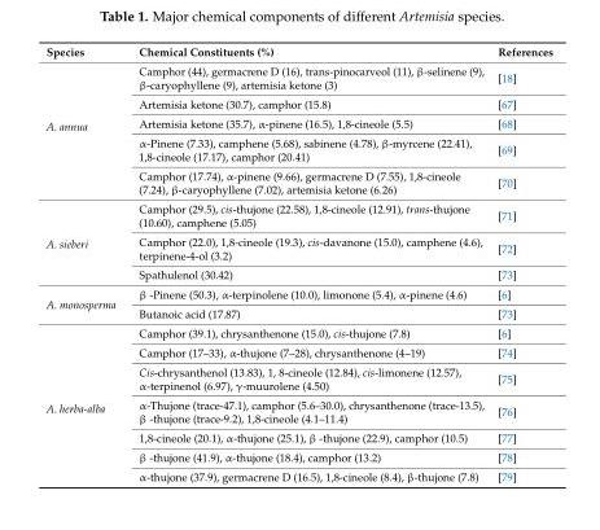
<table><thead><tr><td>Species</td><td>Chemical Constituents (%)</td><td>References</td></tr></thead><tbody><tr><td rowspan="5">A. annua</td><td>Camphor (44), germacrene D (16), trans-pinocarveol (11), β-selinene (9), β-caryophyllene (9), artemisia ketone (3)</td><td>[18]</td></tr><tr><td>Artemisia ketone (30.7), camphor (15.8)</td><td>[67]</td></tr><tr><td>Artemisia ketone (35.7), α-pinene (16.5), 1,8-cineole (5.5)</td><td>[68]</td></tr><tr><td>α-Pinene (7.33), camphene (5.68), sabinene (4.78), β-myrcene (22.41), 1,8-cineole (17.17), camphor (20.41)</td><td>[69]</td></tr><tr><td>Camphor (17.74), α-pinene (9.66), germacrene D (7.55), 1,8-cineole (7.24), β-caryophyllene (7.02), artemisia ketone (6.26)</td><td>[70]</td></tr><tr><td rowspan="3">A. sieberi</td><td>Camphor (29.5), cis-thujone (22.58), 1,8-cineole (12.91), trans-thujone (10.60), camphene (5.05)</td><td>[71]</td></tr><tr><td>Camphor (22.0), 1,8-cineole (19.3), cis-davanone (15.0), camphene (4.6), terpinene-4-ol (3.2)</td><td>[72]</td></tr><tr><td>Spathulenol (30.42)</td><td>[73]</td></tr><tr><td rowspan="2">A. monosperma</td><td>β -Pinene (50.3), α-terpinolene (10.0), limonone (5.4), α-pinene (4.6)</td><td>[6]</td></tr><tr><td>Butanoic acid (17.87)</td><td>[73]</td></tr><tr><td rowspan="7">A. herba-alba</td><td>Camphor (39.1), chrysanthenone (15.0), cis-thujone (7.8)</td><td>[6]</td></tr><tr><td>Camphor (17–33), α-thujone (7–28), chrysanthenone (4–19)</td><td>[74]</td></tr><tr><td>Cis-chrysanthenol (13.83), 1, 8-cineole (12.84), cis-limonene (12.57), α-terpinenol (6.97), γ-muurolene (4.50)</td><td>[75]</td></tr><tr><td>α-Thujone (trace-47.1), camphor (5.6–30.0), chrysanthenone (trace-13.5), β -thujone (trace-9.2), 1,8-cineole (4.1–11.4)</td><td>[76]</td></tr><tr><td>1,8-cineole (20.1), α-thujone (25.1), β -thujone (22.9), camphor (10.5)</td><td>[77]</td></tr><tr><td>β -thujone (41.9), α-thujone (18.4), camphor (13.2)</td><td>[78]</td></tr><tr><td>α-thujone (37.9), germacrene D (16.5), 1,8-cineole (8.4), β-thujone (7.8)</td><td>[79]</td></tr></tbody></table>